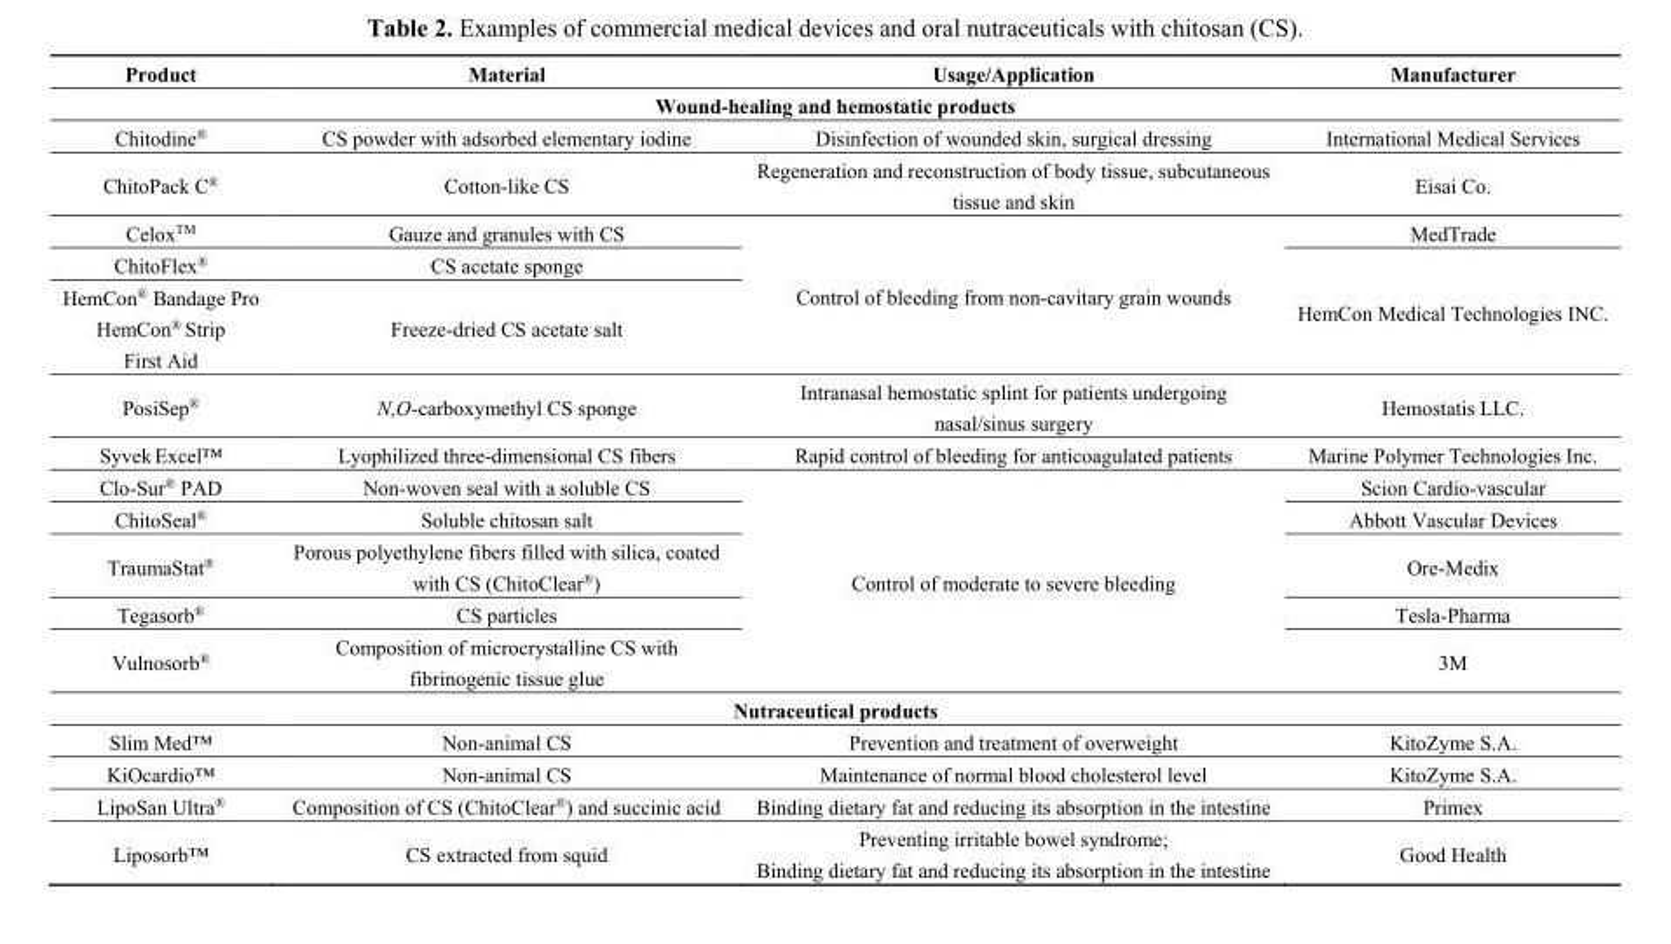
<table><thead><tr><td>Product</td><td>Material</td><td>Usage/Application</td><td>Manufacturer</td></tr></thead><tbody><tr><td colspan="4">Wound-healing and hemostatic products</td></tr><tr><td>Chitodine<sup>®</sup></td><td>CS powder with adsorbed elementary iodine</td><td>Disinfection of wounded skin, surgical dressing</td><td>International Medical Services</td></tr><tr><td>ChitoPack C<sup>®</sup></td><td>Cotton-like CS</td><td>Regeneration and reconstruction of body tissue, subcutaneous tissue and skin</td><td>Eisai Co.</td></tr><tr><td>Celox<sup>TM</sup></td><td>Gauze and granules with CS</td><td rowspan="3">Control of bleeding from non-cavitary grain wounds</td><td>MedTrade</td></tr><tr><td>ChitoFlex<sup>®</sup></td><td>CS acetate sponge</td><td rowspan="2">HemCon Medical Technologies INC.</td></tr><tr><td>HemCon<sup>®</sup> Bandage Pro HemCon<sup>®</sup> Strip First Aid</td><td>Freeze-dried CS acetate salt</td></tr><tr><td>PosiSep<sup>®</sup></td><td>N,O-carboxymethyl CS sponge</td><td>Intranasal hemostatic splint for patients undergoing nasal/sinus surgery</td><td>Hemostatis LLC.</td></tr><tr><td>Syvek Excel™</td><td>Lyophilized three-dimensional CS fibers</td><td>Rapid control of bleeding for anticoagulated patients</td><td>Marine Polymer Technologies Inc.</td></tr><tr><td>Clo-Sur<sup>®</sup> PAD</td><td>Non-woven seal with a soluble CS</td><td rowspan="5">Control of moderate to severe bleeding</td><td>Scion Cardio-vascular</td></tr><tr><td>ChitoSeal<sup>®</sup></td><td>Soluble chitosan salt</td><td>Abbott Vascular Devices</td></tr><tr><td>TraumaStat<sup>®</sup></td><td>Porous polyethylene fibers filled with silica, coated with CS (ChitoClear<sup>®</sup>)</td><td>Ore-Medix</td></tr><tr><td>Tegasorb<sup>®</sup></td><td>CS particles</td><td>Tesla-Pharma</td></tr><tr><td>Vulnosorb<sup>®</sup></td><td>Composition of microcrystalline CS with fibrinogenic tissue glue</td><td>3M</td></tr><tr><td colspan="4">Nutraceutical products</td></tr><tr><td>Slim Med™</td><td>Non-animal CS</td><td>Prevention and treatment of overweight</td><td>KitoZyme S.A.</td></tr><tr><td>KiOcardio™</td><td>Non-animal CS</td><td>Maintenance of normal blood cholesterol level</td><td>KitoZyme S.A.</td></tr><tr><td>LipoSan Ultra<sup>®</sup></td><td>Composition of CS (ChitoClear<sup>®</sup>) and succinic acid</td><td>Binding dietary fat and reducing its absorption in the intestine</td><td>Primex</td></tr><tr><td>Liposorb™</td><td>CS extracted from squid</td><td>Preventing irritable bowel syndrome; Binding dietary fat and reducing its absorption in the intestine</td><td>Good Health</td></tr></tbody></table>